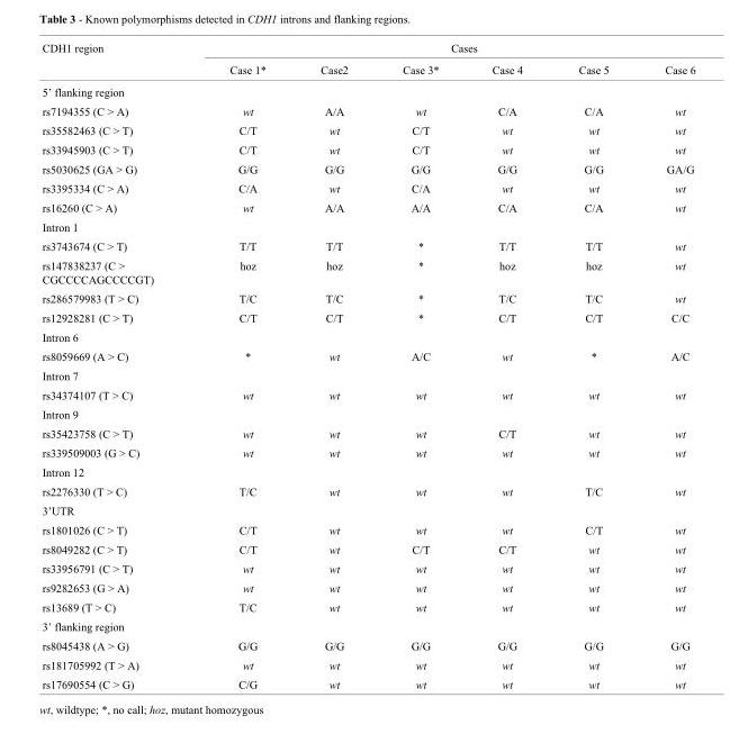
<table><thead><tr><td rowspan="2">CDH1 region</td><td colspan="6">Cases</td></tr><tr><td>Case 1*</td><td>Case2</td><td>Case 3*</td><td>Case 4</td><td>Case 5</td><td>Case 6</td></tr></thead><tbody><tr><td colspan="7">5’ flanking region</td></tr><tr><td>rs7194355 (C &gt; A)</td><td>wt</td><td>A/A</td><td>wt</td><td>C/A</td><td>C/A</td><td>wt</td></tr><tr><td>rs35582463 (C &gt; T)</td><td>C/T</td><td>wt</td><td>C/T</td><td>wt</td><td>wt</td><td>wt</td></tr><tr><td>rs33945903 (C &gt; T)</td><td>C/T</td><td>wt</td><td>C/T</td><td>wt</td><td>wt</td><td>wt</td></tr><tr><td>rs5030625 (GA &gt; G)</td><td>G/G</td><td>G/G</td><td>G/G</td><td>G/G</td><td>G/G</td><td>GA/G</td></tr><tr><td>rs3395334 (C &gt; A)</td><td>C/A</td><td>wt</td><td>C/A</td><td>wt</td><td>wt</td><td>wt</td></tr><tr><td>rs16260 (C &gt; A)</td><td>wt</td><td>A/A</td><td>A/A</td><td>C/A</td><td>C/A</td><td>wt</td></tr><tr><td colspan="7">Intron 1</td></tr><tr><td>rs3743674 (C &gt; T)</td><td>T/T</td><td>T/T</td><td>*</td><td>T/T</td><td>T/T</td><td>wt</td></tr><tr><td>rs147838237 (C &gt; CGCCCCAGCCCCGT)</td><td>hoz</td><td>hoz</td><td>*</td><td>hoz</td><td>hoz</td><td>wt</td></tr><tr><td>rs286579983 (T &gt; C)</td><td>T/C</td><td>T/C</td><td>*</td><td>T/C</td><td>T/C</td><td>wt</td></tr><tr><td>rs12928281 (C &gt; T)</td><td>C/T</td><td>C/T</td><td>*</td><td>C/T</td><td>C/T</td><td>C/C</td></tr><tr><td colspan="7">Intron 6</td></tr><tr><td>rs8059669 (A &gt; C)</td><td>*</td><td>wt</td><td>A/C</td><td>wt</td><td>*</td><td>A/C</td></tr><tr><td colspan="7">Intron 7</td></tr><tr><td>rs34374107 (T &gt; C)</td><td>wt</td><td>wt</td><td>wt</td><td>wt</td><td>wt</td><td>wt</td></tr><tr><td colspan="7">Intron 9</td></tr><tr><td>rs35423758 (C &gt; T)</td><td>wt</td><td>wt</td><td>wt</td><td>C/T</td><td>wt</td><td>wt</td></tr><tr><td>rs339509003 (G &gt; C)</td><td>wt</td><td>wt</td><td>wt</td><td>wt</td><td>wt</td><td>wt</td></tr><tr><td colspan="7">Intron 12</td></tr><tr><td>rs2276330 (T &gt; C)</td><td>T/C</td><td>wt</td><td>wt</td><td>wt</td><td>T/C</td><td>wt</td></tr><tr><td colspan="7">3’UTR</td></tr><tr><td>rs1801026 (C &gt; T)</td><td>C/T</td><td>wt</td><td>wt</td><td>wt</td><td>C/T</td><td>wt</td></tr><tr><td>rs8049282 (C &gt; T)</td><td>C/T</td><td>wt</td><td>C/T</td><td>C/T</td><td>wt</td><td>wt</td></tr><tr><td>rs33956791 (C &gt; T)</td><td>wt</td><td>wt</td><td>wt</td><td>wt</td><td>wt</td><td>wt</td></tr><tr><td>rs9282653 (G &gt; A)</td><td>wt</td><td>wt</td><td>wt</td><td>wt</td><td>wt</td><td>wt</td></tr><tr><td>rs13689 (T &gt; C)</td><td>T/C</td><td>wt</td><td>wt</td><td>wt</td><td>wt</td><td>wt</td></tr><tr><td colspan="7">3’ flanking region</td></tr><tr><td>rs8045438 (A &gt; G)</td><td>G/G</td><td>G/G</td><td>G/G</td><td>G/G</td><td>G/G</td><td>G/G</td></tr><tr><td>rs181705992 (T &gt; A)</td><td>wt</td><td>wt</td><td>wt</td><td>wt</td><td>wt</td><td>wt</td></tr><tr><td>rs17690554 (C &gt; G)</td><td>C/G</td><td>wt</td><td>wt</td><td>wt</td><td>wt</td><td>wt</td></tr></tbody></table>